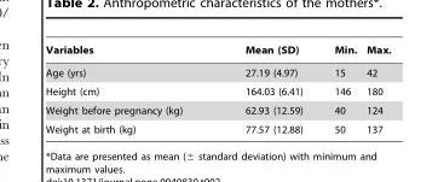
<table><thead><tr><td>Variables</td><td>Mean (SD)</td><td>Min.</td><td>Max.</td></tr></thead><tbody><tr><td>Age (yrs)</td><td>27.19 (4.97)</td><td>15</td><td>42</td></tr><tr><td>Height (cm)</td><td>164.03 (6.41)</td><td>146</td><td>180</td></tr><tr><td>Weight before pregnancy (kg)</td><td>62.93 (12.59)</td><td>40</td><td>124</td></tr><tr><td>Weight at birth (kg)</td><td>77.57 (12.88)</td><td>50</td><td>137</td></tr></tbody></table>